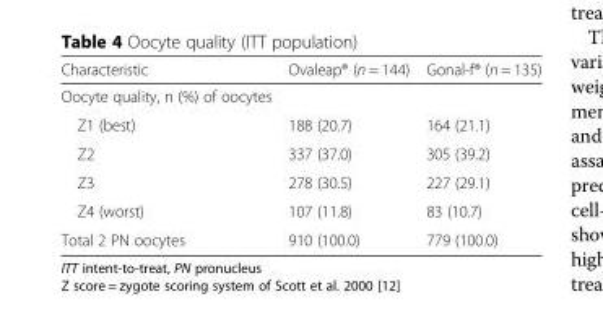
<table><thead><tr><td>Characteristic</td><td>Ovaleap® (n = 144)</td><td>Gonal-f® (n = 135)</td></tr></thead><tbody><tr><td colspan="3">Oocyte quality, n (%) of oocytes</td></tr><tr><td>Z1 (best)</td><td>188 (20.7)</td><td>164 (21.1)</td></tr><tr><td>Z2</td><td>337 (37.0)</td><td>305 (39.2)</td></tr><tr><td>Z3</td><td>278 (30.5)</td><td>227 (29.1)</td></tr><tr><td>Z4 (worst)</td><td>107 (11.8)</td><td>83 (10.7)</td></tr><tr><td>Total 2 PN oocytes</td><td>910 (100.0)</td><td>779 (100.0)</td></tr></tbody></table>